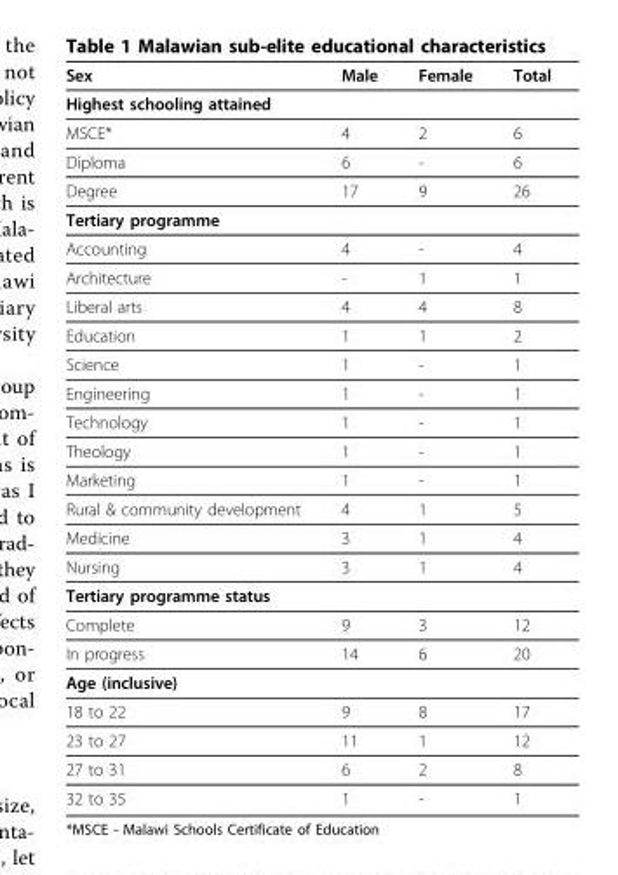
<table><thead><tr><td>Sex</td><td>Male</td><td>Female</td><td>Total</td></tr></thead><tbody><tr><td colspan="4">Highest schooling attained</td></tr><tr><td>MSCE*</td><td>4</td><td>2</td><td>6</td></tr><tr><td>Diploma</td><td>6</td><td>-</td><td>6</td></tr><tr><td>Degree</td><td>17</td><td>9</td><td>26</td></tr><tr><td colspan="4">Tertiary programme</td></tr><tr><td>Accounting</td><td>4</td><td>-</td><td>4</td></tr><tr><td>Architecture</td><td>-</td><td>1</td><td>1</td></tr><tr><td>Liberal arts</td><td>4</td><td>4</td><td>8</td></tr><tr><td>Education</td><td>1</td><td>1</td><td>2</td></tr><tr><td>Science</td><td>1</td><td>-</td><td>1</td></tr><tr><td>Engineering</td><td>1</td><td>-</td><td>1</td></tr><tr><td>Technology</td><td>1</td><td>-</td><td>1</td></tr><tr><td>Theology</td><td>1</td><td>-</td><td>1</td></tr><tr><td>Marketing</td><td>1</td><td>-</td><td>1</td></tr><tr><td>Rural &amp; community development</td><td>4</td><td>1</td><td>5</td></tr><tr><td>Medicine</td><td>3</td><td>1</td><td>4</td></tr><tr><td>Nursing</td><td>3</td><td>1</td><td>4</td></tr><tr><td colspan="4">Tertiary programme status</td></tr><tr><td>Complete</td><td>9</td><td>3</td><td>12</td></tr><tr><td>In progress</td><td>14</td><td>6</td><td>20</td></tr><tr><td colspan="4">Age (inclusive)</td></tr><tr><td>18 to 22</td><td>9</td><td>8</td><td>17</td></tr><tr><td>23 to 27</td><td>11</td><td>1</td><td>12</td></tr><tr><td>27 to 31</td><td>6</td><td>2</td><td>8</td></tr><tr><td>32 to 35</td><td>1</td><td>-</td><td>1</td></tr></tbody></table>